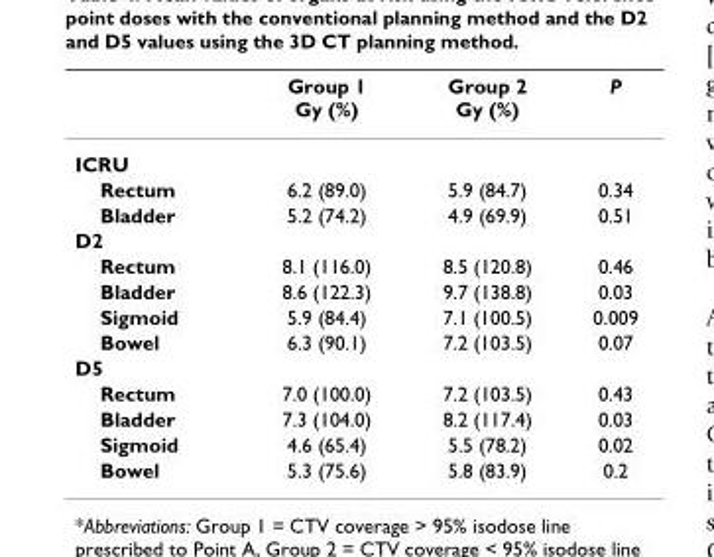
<table><thead><tr><td></td><td>Group 1 Gy (%)</td><td>Group 2 Gy (%)</td><td>P</td></tr></thead><tbody><tr><td colspan="4">ICRU</td></tr><tr><td>Rectum</td><td>6.2 (89.0)</td><td>5.9 (84.7)</td><td>0.34</td></tr><tr><td>Bladder</td><td>5.2 (74.2)</td><td>4.9 (69.9)</td><td>0.51</td></tr><tr><td colspan="4">D2</td></tr><tr><td>Rectum</td><td>8.1 (116.0)</td><td>8.5 (120.8)</td><td>0.46</td></tr><tr><td>Bladder</td><td>8.6 (122.3)</td><td>9.7 (138.8)</td><td>0.03</td></tr><tr><td>Sigmoid</td><td>5.9 (84.4)</td><td>7.1 (100.5)</td><td>0.009</td></tr><tr><td>Bowel</td><td>6.3 (90.1)</td><td>7.2 (103.5)</td><td>0.07</td></tr><tr><td colspan="4">D5</td></tr><tr><td>Rectum</td><td>7.0 (100.0)</td><td>7.2 (103.5)</td><td>0.43</td></tr><tr><td>Bladder</td><td>7.3 (104.0)</td><td>8.2 (117.4)</td><td>0.03</td></tr><tr><td>Sigmoid</td><td>4.6 (65.4)</td><td>5.5 (78.2)</td><td>0.02</td></tr><tr><td>Bowel</td><td>5.3 (75.6)</td><td>5.8 (83.9)</td><td>0.2</td></tr></tbody></table>